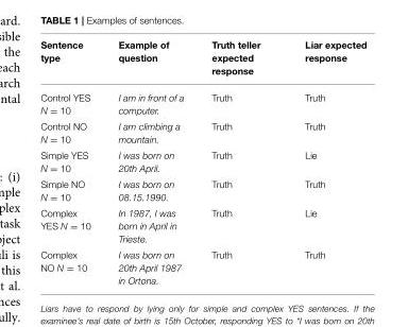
<table><thead><tr><td>Sentence type</td><td>Example of question</td><td>Truth teller expected response</td><td>Liar expected response</td></tr></thead><tbody><tr><td>Control YES N = 10</td><td>I am in front of a computer.</td><td>Truth</td><td>Truth</td></tr><tr><td>Control NO N = 10</td><td>I am climbing a mountain.</td><td>Truth</td><td>Truth</td></tr><tr><td>Simple YES N = 10</td><td>I was born on 20th April.</td><td>Truth</td><td>Lie</td></tr><tr><td>Simple NO N = 10</td><td>I was born on 08.15.1990.</td><td>Truth</td><td>Truth</td></tr><tr><td>Complex YES N = 10</td><td>In 1987, I was born in April in Trieste.</td><td>Truth</td><td>Lie</td></tr><tr><td>Complex NO N = 10</td><td>I was born on 20th April 1987 in Ortona.</td><td>Truth</td><td>Truth</td></tr></tbody></table>